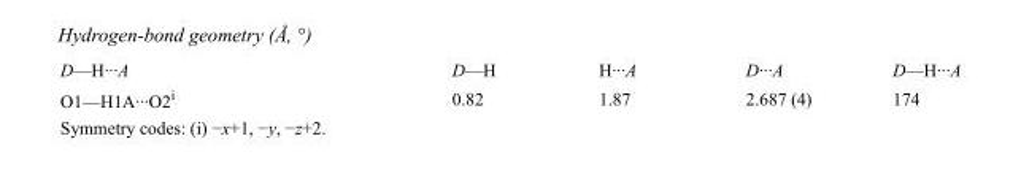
<table><tbody><tr><td>D—H···A</td><td>D—H</td><td>H···A</td><td>D···A</td><td>D—H···A</td></tr><tr><td>O1—H1A···O2<sup>i</sup></td><td>0.82</td><td>1.87</td><td>2.687 (4)</td><td>174</td></tr></tbody></table>